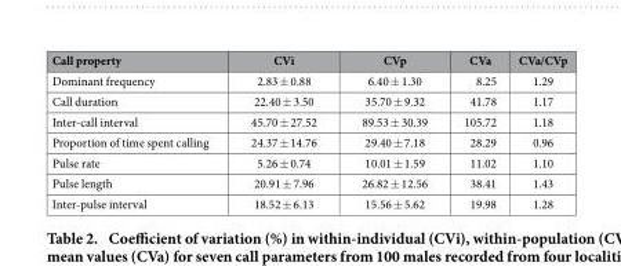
<table><thead><tr><td>Call property</td><td>CVi</td><td>CVp</td><td>CVa</td><td>CVa/CVp</td></tr></thead><tbody><tr><td>Dominant frequency</td><td>2.83 ± 0.88</td><td>6.40 ± 1.30</td><td>8.25</td><td>1.29</td></tr><tr><td>Call duration</td><td>22.40 ± 3.50</td><td>35.70 ± 9.32</td><td>41.78</td><td>1.17</td></tr><tr><td>Inter-call interval</td><td>45.70 ± 27.52</td><td>89.53 ± 30.39</td><td>105.72</td><td>1.18</td></tr><tr><td>Proportion of time spent calling</td><td>24.37 ± 14.76</td><td>29.40 ± 7.18</td><td>28.29</td><td>0.96</td></tr><tr><td>Pulse rate</td><td>5.26 ± 0.74</td><td>10.01 ± 1.59</td><td>11.02</td><td>1.10</td></tr><tr><td>Pulse length</td><td>20.91 ± 7.96</td><td>26.82 ± 12.56</td><td>38.41</td><td>1.43</td></tr><tr><td>Inter-pulse interval</td><td>18.52 ± 6.13</td><td>15.56 ± 5.62</td><td>19.98</td><td>1.28</td></tr></tbody></table>